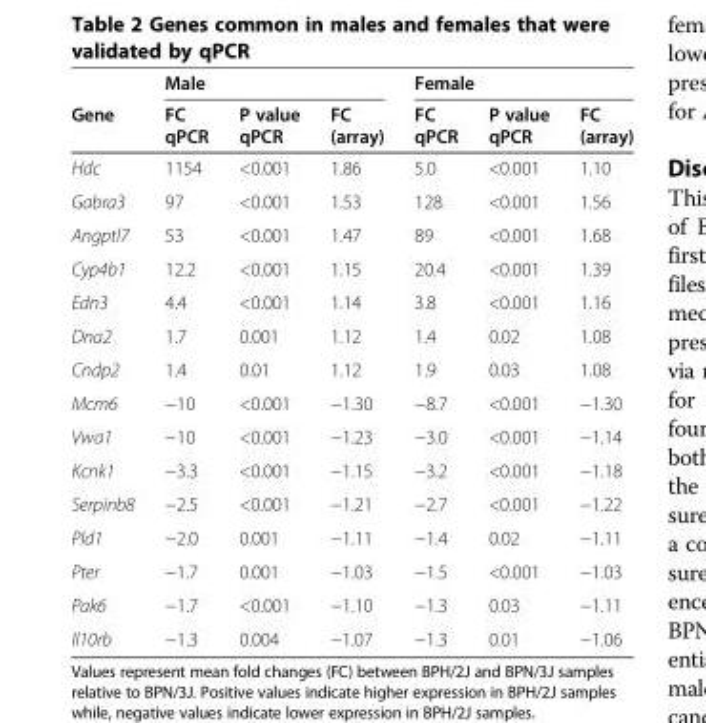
<table><thead><tr><td rowspan="2">Gene</td><td colspan="3">Male</td><td colspan="3">Female</td></tr><tr><td>FC qPCR</td><td>P value qPCR</td><td>FC (array)</td><td>FC qPCR</td><td>P value qPCR</td><td>FC (array)</td></tr></thead><tbody><tr><td>Hdc</td><td>1154</td><td>&lt;0.001</td><td>1.86</td><td>5.0</td><td>&lt;0.001</td><td>1.10</td></tr><tr><td>Gabra3</td><td>97</td><td>&lt;0.001</td><td>1.53</td><td>128</td><td>&lt;0.001</td><td>1.56</td></tr><tr><td>Angptl7</td><td>53</td><td>&lt;0.001</td><td>1.47</td><td>89</td><td>&lt;0.001</td><td>1.68</td></tr><tr><td>Cyp4b1</td><td>12.2</td><td>&lt;0.001</td><td>1.15</td><td>20.4</td><td>&lt;0.001</td><td>1.39</td></tr><tr><td>Edn3</td><td>4.4</td><td>&lt;0.001</td><td>1.14</td><td>3.8</td><td>&lt;0.001</td><td>1.16</td></tr><tr><td>Dna2</td><td>1.7</td><td>0.001</td><td>1.12</td><td>1.4</td><td>0.02</td><td>1.08</td></tr><tr><td>Cndp2</td><td>1.4</td><td>0.01</td><td>1.12</td><td>1.9</td><td>0.03</td><td>1.08</td></tr><tr><td>Mcm6</td><td>−10</td><td>&lt;0.001</td><td>−1.30</td><td>−8.7</td><td>&lt;0.001</td><td>−1.30</td></tr><tr><td>Vwa1</td><td>−10</td><td>&lt;0.001</td><td>−1.23</td><td>−3.0</td><td>&lt;0.001</td><td>−1.14</td></tr><tr><td>Kcnk1</td><td>−3.3</td><td>&lt;0.001</td><td>−1.15</td><td>−3.2</td><td>&lt;0.001</td><td>−1.18</td></tr><tr><td>Serpinb8</td><td>−2.5</td><td>&lt;0.001</td><td>−1.21</td><td>−2.7</td><td>&lt;0.001</td><td>−1.22</td></tr><tr><td>Pld1</td><td>−2.0</td><td>0.001</td><td>−1.11</td><td>−1.4</td><td>0.02</td><td>−1.11</td></tr><tr><td>Pter</td><td>−1.7</td><td>0.001</td><td>−1.03</td><td>−1.5</td><td>&lt;0.001</td><td>−1.03</td></tr><tr><td>Pak6</td><td>−1.7</td><td>&lt;0.001</td><td>−1.10</td><td>−1.3</td><td>0.03</td><td>−1.11</td></tr><tr><td>Il10rb</td><td>−1.3</td><td>0.004</td><td>−1.07</td><td>−1.3</td><td>0.01</td><td>−1.06</td></tr></tbody></table>